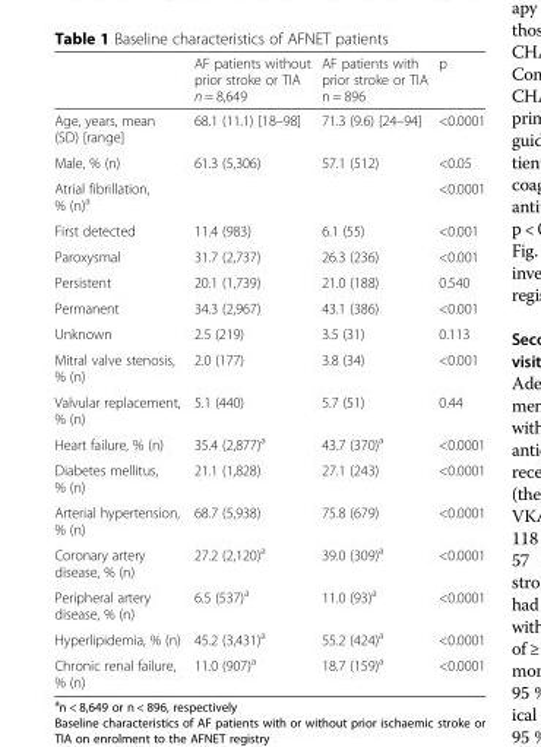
<table><thead><tr><td></td><td>AF patients without prior stroke or TIA n = 8,649</td><td>AF patients with prior stroke or TIA n = 896</td><td>p</td></tr></thead><tbody><tr><td>Age, years, mean (SD) [range]</td><td>68.1 (11.1) [18–98]</td><td>71.3 (9.6) [24–94]</td><td>&lt;0.0001</td></tr><tr><td>Male, % (n)</td><td>61.3 (5,306)</td><td>57.1 (512)</td><td>&lt;0.05</td></tr><tr><td>Atrial fibrillation, % (n)<sup>a</sup></td><td></td><td></td><td>&lt;0.0001</td></tr><tr><td>First detected</td><td>11.4 (983)</td><td>6.1 (55)</td><td>&lt;0.001</td></tr><tr><td>Paroxysmal</td><td>31.7 (2,737)</td><td>26.3 (236)</td><td>&lt;0.001</td></tr><tr><td>Persistent</td><td>20.1 (1,739)</td><td>21.0 (188)</td><td>0.540</td></tr><tr><td>Permanent</td><td>34.3 (2,967)</td><td>43.1 (386)</td><td>&lt;0.001</td></tr><tr><td>Unknown</td><td>2.5 (219)</td><td>3.5 (31)</td><td>0.113</td></tr><tr><td>Mitral valve stenosis, % (n)</td><td>2.0 (177)</td><td>3.8 (34)</td><td>&lt;0.001</td></tr><tr><td>Valvular replacement, % (n)</td><td>5.1 (440)</td><td>5.7 (51)</td><td>0.44</td></tr><tr><td>Heart failure, % (n)</td><td>35.4 (2,877)<sup>a</sup></td><td>43.7 (370)<sup>a</sup></td><td>&lt;0.0001</td></tr><tr><td>Diabetes mellitus, % (n)</td><td>21.1 (1,828)</td><td>27.1 (243)</td><td>&lt;0.0001</td></tr><tr><td>Arterial hypertension, % (n)</td><td>68.7 (5,938)</td><td>75.8 (679)</td><td>&lt;0.0001</td></tr><tr><td>Coronary artery disease, % (n)</td><td>27.2 (2,120)<sup>a</sup></td><td>39.0 (309)<sup>a</sup></td><td>&lt;0.0001</td></tr><tr><td>Peripheral artery disease, % (n)</td><td>6.5 (537)<sup>a</sup></td><td>11.0 (93)<sup>a</sup></td><td>&lt;0.0001</td></tr><tr><td>Hyperlipidemia, % (n)</td><td>45.2 (3,431)<sup>a</sup></td><td>55.2 (424)<sup>a</sup></td><td>&lt;0.0001</td></tr><tr><td>Chronic renal failure, % (n)</td><td>11.0 (907)<sup>a</sup></td><td>18.7 (159)<sup>a</sup></td><td>&lt;0.0001</td></tr></tbody></table>